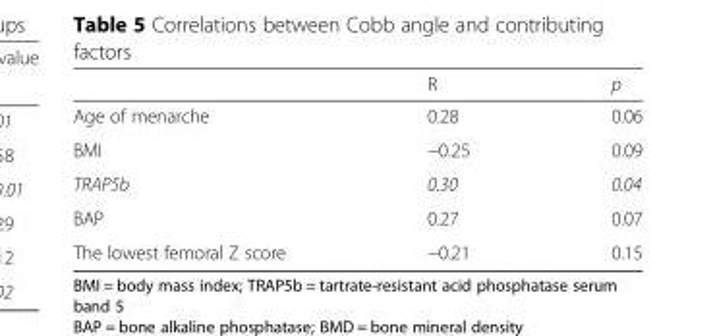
<table><thead><tr><td></td><td>R</td><td>p</td></tr></thead><tbody><tr><td>Age of menarche</td><td>0.28</td><td>0.06</td></tr><tr><td>BMI</td><td>−0.25</td><td>0.09</td></tr><tr><td>TRAP5b</td><td>0.30</td><td>0.04</td></tr><tr><td>BAP</td><td>0.27</td><td>0.07</td></tr><tr><td>The lowest femoral Z score</td><td>−0.21</td><td>0.15</td></tr></tbody></table>